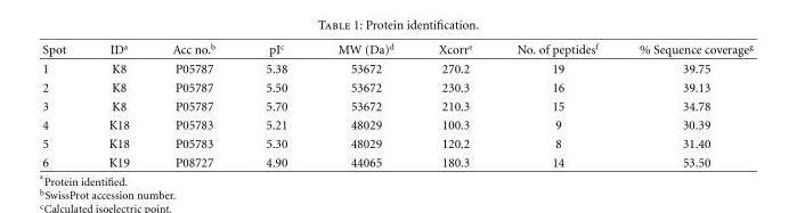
<table><thead><tr><td>Spot</td><td>ID<sup>a</sup></td><td>Acc no.<sup>b</sup></td><td>pI<sup>c</sup></td><td>MW (Da)<sup>d</sup></td><td>Xcorr<sup>e</sup></td><td>No. of peptides<sup>f</sup></td><td>% Sequence coverage<sup>g</sup></td></tr></thead><tbody><tr><td>1</td><td>K8</td><td>P05787</td><td>5.38</td><td>53672</td><td>270.2</td><td>19</td><td>39.75</td></tr><tr><td>2</td><td>K8</td><td>P05787</td><td>5.50</td><td>53672</td><td>230.3</td><td>16</td><td>39.13</td></tr><tr><td>3</td><td>K8</td><td>P05787</td><td>5.70</td><td>53672</td><td>210.3</td><td>15</td><td>34.78</td></tr><tr><td>4</td><td>K18</td><td>P05783</td><td>5.21</td><td>48029</td><td>100.3</td><td>9</td><td>30.39</td></tr><tr><td>5</td><td>K18</td><td>P05783</td><td>5.30</td><td>48029</td><td>120.2</td><td>8</td><td>31.40</td></tr><tr><td>6</td><td>K19</td><td>P08727</td><td>4.90</td><td>44065</td><td>180.3</td><td>14</td><td>53.50</td></tr></tbody></table>